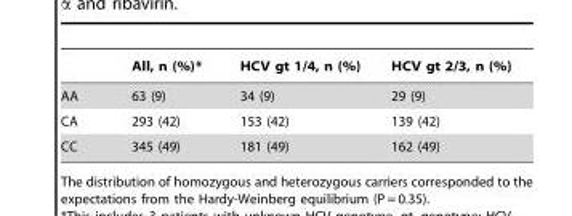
<table><thead><tr><td></td><td>All, n (%)*</td><td>HCV gt 1/4, n (%)</td><td>HCV gt 2/3, n (%)</td></tr></thead><tbody><tr><td>AA</td><td>63 (9)</td><td>34 (9)</td><td>29 (9)</td></tr><tr><td>CA</td><td>293 (42)</td><td>153 (42)</td><td>139 (42)</td></tr><tr><td>CC</td><td>345 (49)</td><td>181 (49)</td><td>162 (49)</td></tr></tbody></table>